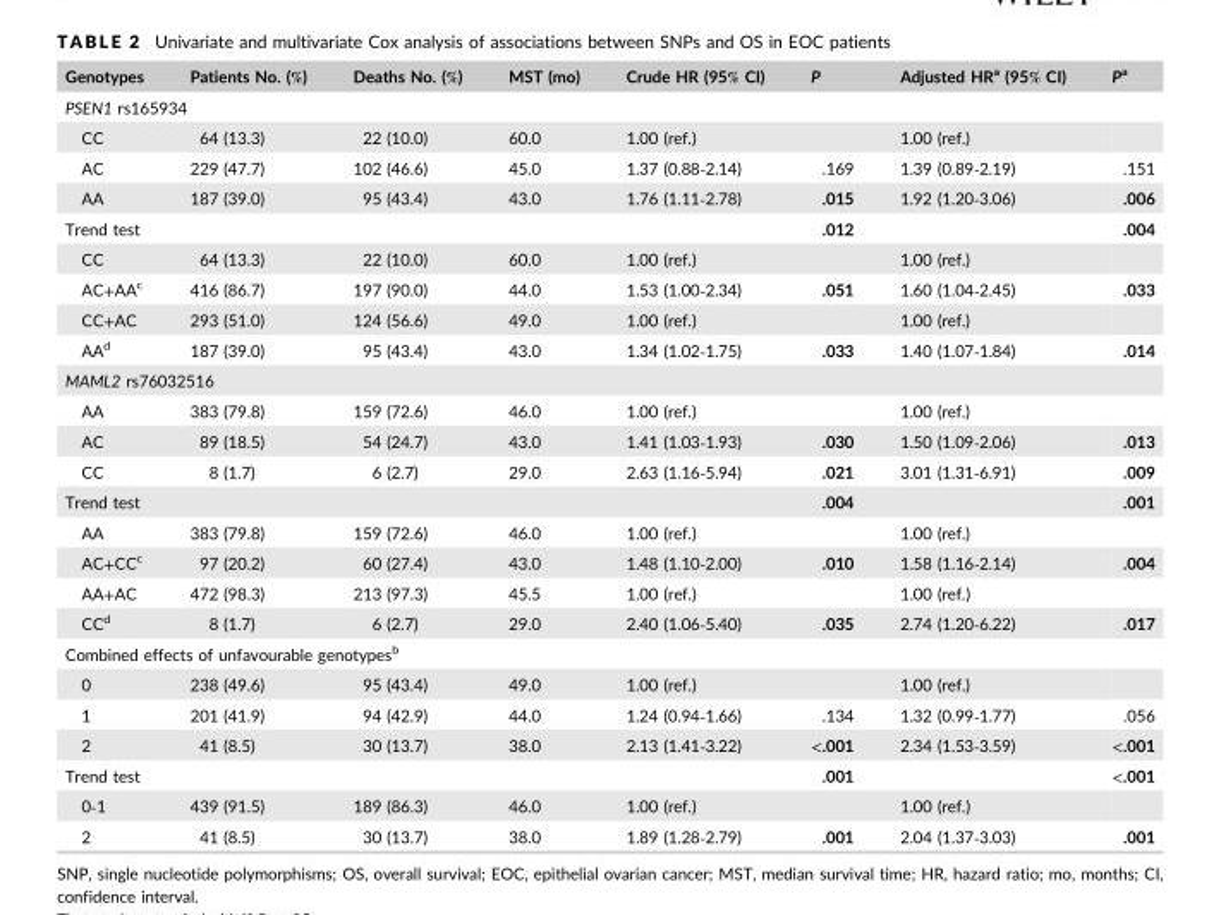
<table><thead><tr><td>Genotypes</td><td>Patients No. (%)</td><td>Deaths No. (%)</td><td>MST (mo)</td><td>Crude HR (95% CI)</td><td>P</td><td>Adjusted HR<sup>a</sup> (95% CI)</td><td>Pa</td></tr></thead><tbody><tr><td colspan="8">PSEN1 rs165934</td></tr><tr><td>CC</td><td>64 (13.3)</td><td>22 (10.0)</td><td>60.0</td><td>1.00 (ref.)</td><td></td><td>1.00 (ref.)</td><td></td></tr><tr><td>AC</td><td>229 (47.7)</td><td>102 (46.6)</td><td>45.0</td><td>1.37 (0.88‐2.14)</td><td>.169</td><td>1.39 (0.89‐2.19)</td><td>.151</td></tr><tr><td>AA</td><td>187 (39.0)</td><td>95 (43.4)</td><td>43.0</td><td>1.76 (1.11‐2.78)</td><td>.015</td><td>1.92 (1.20‐3.06)</td><td>.006</td></tr><tr><td>Trend test</td><td></td><td></td><td></td><td></td><td>.012</td><td></td><td>.004</td></tr><tr><td>CC</td><td>64 (13.3)</td><td>22 (10.0)</td><td>60.0</td><td>1.00 (ref.)</td><td></td><td>1.00 (ref.)</td><td></td></tr><tr><td>AC+AA<sup>c</sup></td><td>416 (86.7)</td><td>197 (90.0)</td><td>44.0</td><td>1.53 (1.00‐2.34)</td><td>.051</td><td>1.60 (1.04‐2.45)</td><td>.033</td></tr><tr><td>CC+AC</td><td>293 (51.0)</td><td>124 (56.6)</td><td>49.0</td><td>1.00 (ref.)</td><td></td><td>1.00 (ref.)</td><td></td></tr><tr><td>AA<sup>d</sup></td><td>187 (39.0)</td><td>95 (43.4)</td><td>43.0</td><td>1.34 (1.02‐1.75)</td><td>.033</td><td>1.40 (1.07‐1.84)</td><td>.014</td></tr><tr><td colspan="8">MAML2 rs76032516</td></tr><tr><td>AA</td><td>383 (79.8)</td><td>159 (72.6)</td><td>46.0</td><td>1.00 (ref.)</td><td></td><td>1.00 (ref.)</td><td></td></tr><tr><td>AC</td><td>89 (18.5)</td><td>54 (24.7)</td><td>43.0</td><td>1.41 (1.03‐1.93)</td><td>.030</td><td>1.50 (1.09‐2.06)</td><td>.013</td></tr><tr><td>CC</td><td>8 (1.7)</td><td>6 (2.7)</td><td>29.0</td><td>2.63 (1.16‐5.94)</td><td>.021</td><td>3.01 (1.31‐6.91)</td><td>.009</td></tr><tr><td>Trend test</td><td></td><td></td><td></td><td></td><td>.004</td><td></td><td>.001</td></tr><tr><td>AA</td><td>383 (79.8)</td><td>159 (72.6)</td><td>46.0</td><td>1.00 (ref.)</td><td></td><td>1.00 (ref.)</td><td></td></tr><tr><td>AC+CC<sup>c</sup></td><td>97 (20.2)</td><td>60 (27.4)</td><td>43.0</td><td>1.48 (1.10‐2.00)</td><td>.010</td><td>1.58 (1.16‐2.14)</td><td>.004</td></tr><tr><td>AA+AC</td><td>472 (98.3)</td><td>213 (97.3)</td><td>45.5</td><td>1.00 (ref.)</td><td></td><td>1.00 (ref.)</td><td></td></tr><tr><td>CC<sup>d</sup></td><td>8 (1.7)</td><td>6 (2.7)</td><td>29.0</td><td>2.40 (1.06‐5.40)</td><td>.035</td><td>2.74 (1.20‐6.22)</td><td>.017</td></tr><tr><td colspan="8">Combined effects of unfavourable genotypes<sup>b</sup></td></tr><tr><td>0</td><td>238 (49.6)</td><td>95 (43.4)</td><td>49.0</td><td>1.00 (ref.)</td><td></td><td>1.00 (ref.)</td><td></td></tr><tr><td>1</td><td>201 (41.9)</td><td>94 (42.9)</td><td>44.0</td><td>1.24 (0.94‐1.66)</td><td>.134</td><td>1.32 (0.99‐1.77)</td><td>.056</td></tr><tr><td>2</td><td>41 (8.5)</td><td>30 (13.7)</td><td>38.0</td><td>2.13 (1.41‐3.22)</td><td>&lt;.001</td><td>2.34 (1.53‐3.59)</td><td>&lt;.001</td></tr><tr><td>Trend test</td><td></td><td></td><td></td><td></td><td>.001</td><td></td><td>&lt;.001</td></tr><tr><td>0‐1</td><td>439 (91.5)</td><td>189 (86.3)</td><td>46.0</td><td>1.00 (ref.)</td><td></td><td>1.00 (ref.)</td><td></td></tr><tr><td>2</td><td>41 (8.5)</td><td>30 (13.7)</td><td>38.0</td><td>1.89 (1.28‐2.79)</td><td>.001</td><td>2.04 (1.37‐3.03)</td><td>.001</td></tr></tbody></table>